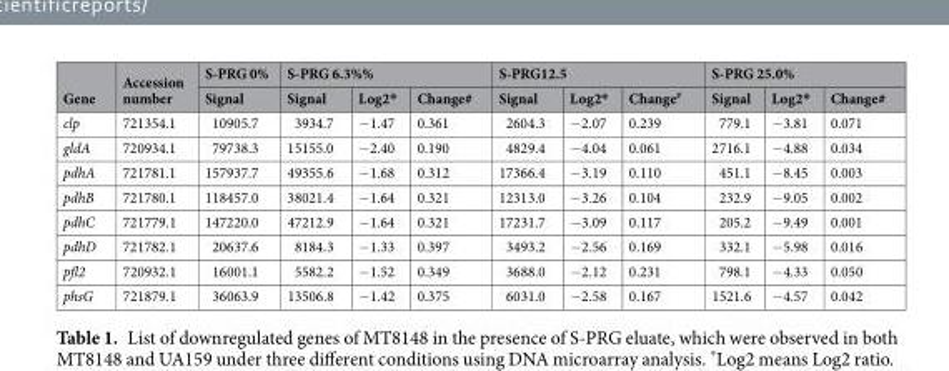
<table><thead><tr><td rowspan="2">Gene</td><td rowspan="2">Accession number</td><td rowspan="2">S-PRG 0% Signal</td><td colspan="3">S-PRG 6.3%%</td><td colspan="3">S-PRG12.5</td><td colspan="3">S-PRG 25.0%</td></tr><tr><td>Signal</td><td>Log2*</td><td>Change#</td><td>Signal</td><td>Log2*</td><td>Change<sup>#</sup></td><td>Signal</td><td>Log2*</td><td>Change#</td></tr></thead><tbody><tr><td>clp</td><td>721354.1</td><td>10905.7</td><td>3934.7</td><td>−1.47</td><td>0.361</td><td>2604.3</td><td>−2.07</td><td>0.239</td><td>779.1</td><td>−3.81</td><td>0.071</td></tr><tr><td>gldA</td><td>720934.1</td><td>79738.3</td><td>15155.0</td><td>−2.40</td><td>0.190</td><td>4829.4</td><td>−4.04</td><td>0.061</td><td>2716.1</td><td>−4.88</td><td>0.034</td></tr><tr><td>pdhA</td><td>721781.1</td><td>157937.7</td><td>49355.6</td><td>−1.68</td><td>0.312</td><td>17366.4</td><td>−3.19</td><td>0.110</td><td>451.1</td><td>−8.45</td><td>0.003</td></tr><tr><td>pdhB</td><td>721780.1</td><td>118457.0</td><td>38021.4</td><td>−1.64</td><td>0.321</td><td>12313.0</td><td>−3.26</td><td>0.104</td><td>232.9</td><td>−9.05</td><td>0.002</td></tr><tr><td>pdhC</td><td>721779.1</td><td>147220.0</td><td>47212.9</td><td>−1.64</td><td>0.321</td><td>17231.7</td><td>−3.09</td><td>0.117</td><td>205.2</td><td>−9.49</td><td>0.001</td></tr><tr><td>pdhD</td><td>721782.1</td><td>20637.6</td><td>8184.3</td><td>−1.33</td><td>0.397</td><td>3493.2</td><td>−2.56</td><td>0.169</td><td>332.1</td><td>−5.98</td><td>0.016</td></tr><tr><td>pfl2</td><td>720932.1</td><td>16001.1</td><td>5582.2</td><td>−1.52</td><td>0.349</td><td>3688.0</td><td>−2.12</td><td>0.231</td><td>798.1</td><td>−4.33</td><td>0.050</td></tr><tr><td>phsG</td><td>721879.1</td><td>36063.9</td><td>13506.8</td><td>−1.42</td><td>0.375</td><td>6031.0</td><td>−2.58</td><td>0.167</td><td>1521.6</td><td>−4.57</td><td>0.042</td></tr></tbody></table>